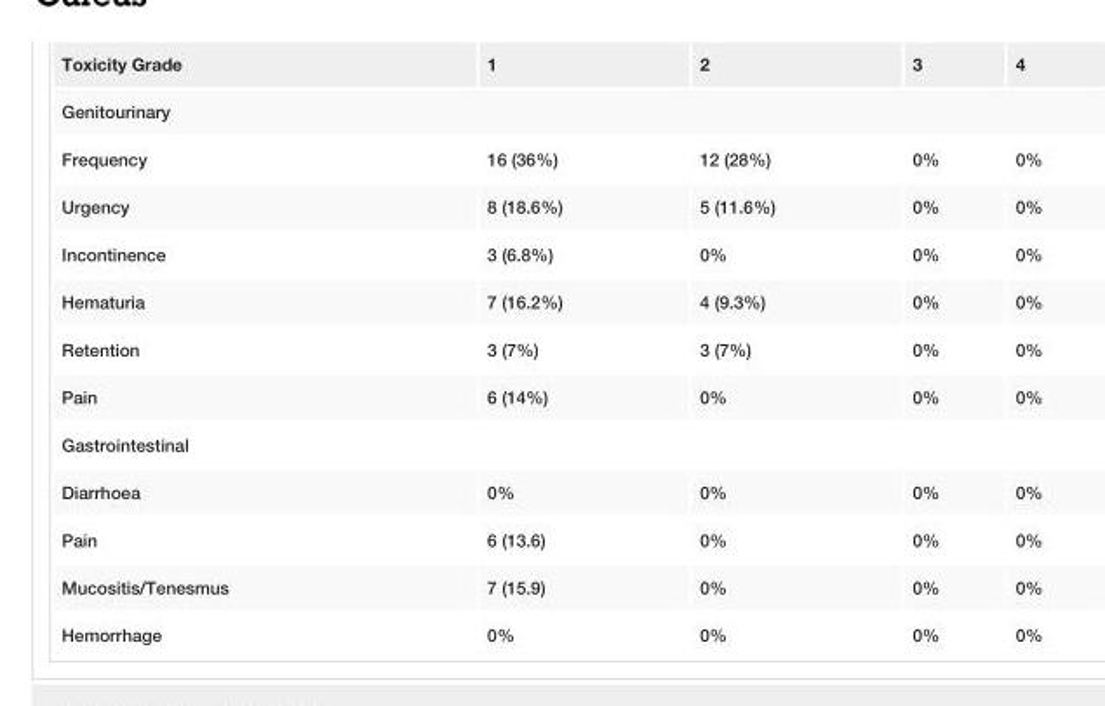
<table><tbody><tr><td>Toxicity Grade</td><td>1</td><td>2</td><td>3</td><td>4</td></tr><tr><td colspan="5">Genitourinary</td></tr><tr><td>Frequency</td><td>16 (36%)</td><td>12 (28%)</td><td>0%</td><td>0%</td></tr><tr><td>Urgency</td><td>8 (18.6%)</td><td>5 (11.6%)</td><td>0%</td><td>0%</td></tr><tr><td>Incontinence</td><td>3 (6.8%)</td><td>0%</td><td>0%</td><td>0%</td></tr><tr><td>Hematuria</td><td>7 (16.2%)</td><td>4 (9.3%)</td><td>0%</td><td>0%</td></tr><tr><td>Retention</td><td>3 (7%)</td><td>3 (7%)</td><td>0%</td><td>0%</td></tr><tr><td>Pain</td><td>6 (14%)</td><td>0%</td><td>0%</td><td>0%</td></tr><tr><td colspan="5">Gastrointestinal</td></tr><tr><td>Diarrhoea</td><td>0%</td><td>0%</td><td>0%</td><td>0%</td></tr><tr><td>Pain</td><td>6 (13.6)</td><td>0%</td><td>0%</td><td>0%</td></tr><tr><td>Mucositis/Tenesmus</td><td>7 (15.9)</td><td>0%</td><td>0%</td><td>0%</td></tr><tr><td>Hemorrhage</td><td>0%</td><td>0%</td><td>0%</td><td>0%</td></tr></tbody></table>